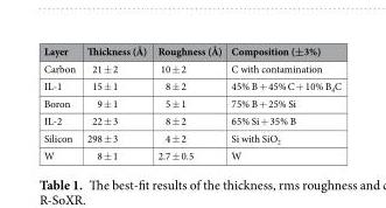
<table><thead><tr><td>Layer</td><td>Thickness (Å)</td><td>Roughness (Å)</td><td>Composition (±3%)</td></tr></thead><tbody><tr><td>Carbon</td><td>21 ± 2</td><td>10 ± 2</td><td>C with contamination</td></tr><tr><td>IL-1</td><td>15 ± 1</td><td>8 ± 2</td><td>45% B + 45% C + 10% B<sub>4</sub>C</td></tr><tr><td>Boron</td><td>9 ± 1</td><td>5 ± 1</td><td>75% B + 25% Si</td></tr><tr><td>IL-2</td><td>22 ± 3</td><td>8 ± 2</td><td>65% Si + 35% B</td></tr><tr><td>Silicon</td><td>298 ± 3</td><td>4 ± 2</td><td>Si with SiO<sub>2</sub></td></tr><tr><td>W</td><td>8 ± 1</td><td>2.7 ± 0.5</td><td>W</td></tr></tbody></table>